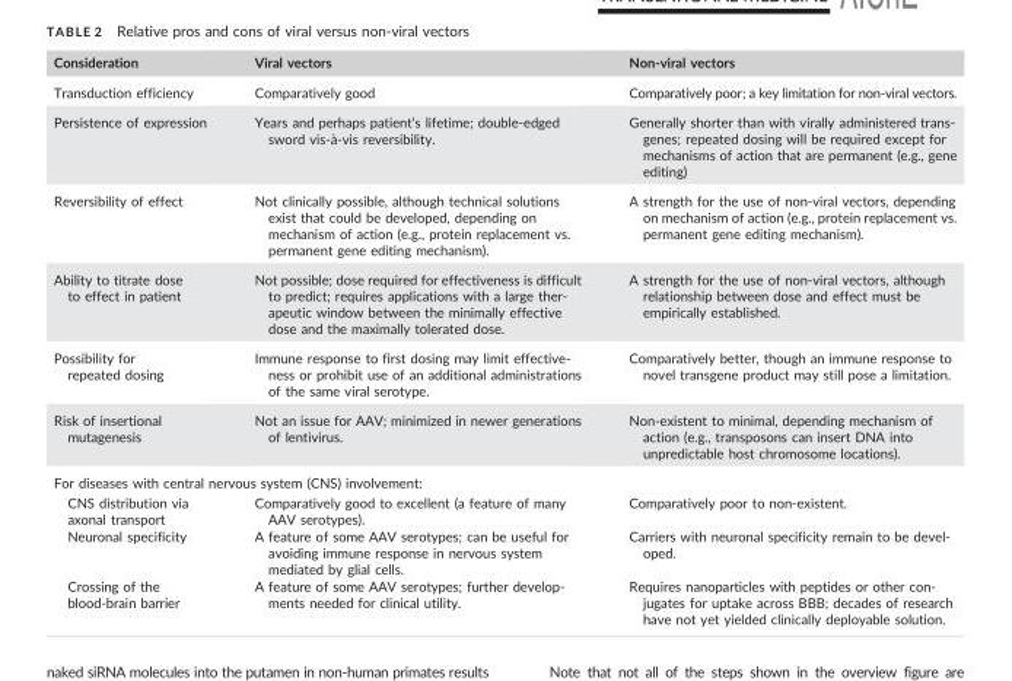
<table><thead><tr><td>Consideration</td><td>Viral vectors</td><td>Non-viral vectors</td></tr></thead><tbody><tr><td>Transduction efficiency</td><td>Comparatively good</td><td>Comparatively poor; a key limitation for non-viral vectors.</td></tr><tr><td>Persistence of expression</td><td>Years and perhaps patient’s lifetime; double-edged sword vis-�a-vis reversibility.</td><td>Generally shorter than with virally administered trans- genes; repeated dosing will be required except for mechanisms of action that are permanent (e.g., gene editing)</td></tr><tr><td>Reversibility of effect</td><td>Not clinically possible, although technical solutions exist that could be developed, depending on mechanism of action (e.g., protein replacement vs. permanent gene editing mechanism).</td><td>A strength for the use of non-viral vectors, depending on mechanism of action (e.g., protein replacement vs. permanent gene editing mechanism).</td></tr><tr><td>Ability to titrate dose to effect in patient</td><td>Not possible; dose required for effectiveness is difficult to predict; requires applications with a large ther- apeutic window between the minimally effective dose and the maximally tolerated dose.</td><td>A strength for the use of non-viral vectors, although relationship between dose and effect must be empirically established.</td></tr><tr><td>Possibility for repeated dosing</td><td>Immune response to first dosing may limit effective- ness or prohibit use of an additional administrations of the same viral serotype.</td><td>Comparatively better, though an immune response to novel transgene product may still pose a limitation.</td></tr><tr><td>Risk of insertional mutagenesis</td><td>Not an issue for AAV; minimized in newer generations of lentivirus.</td><td>Non-existent to minimal, depending mechanism of action (e.g., transposons can insert DNA into unpredictable host chromosome locations).</td></tr><tr><td colspan="3">For diseases with central nervous system (CNS) involvement:</td></tr><tr><td>CNS distribution via axonal transport</td><td>Comparatively good to excellent (a feature of many AAV serotypes).</td><td>Comparatively poor to non-existent.</td></tr><tr><td>Neuronal specificity</td><td>A feature of some AAV serotypes; can be useful for avoiding immune response in nervous system mediated by glial cells.</td><td>Carriers with neuronal specificity remain to be devel- oped.</td></tr><tr><td>Crossing of the blood-brain barrier</td><td>A feature of some AAV serotypes; further develop- ments needed for clinical utility.</td><td>Requires nanoparticles with peptides or other con- jugates for uptake across BBB; decades of research have not yet yielded clinically deployable solution.</td></tr></tbody></table>